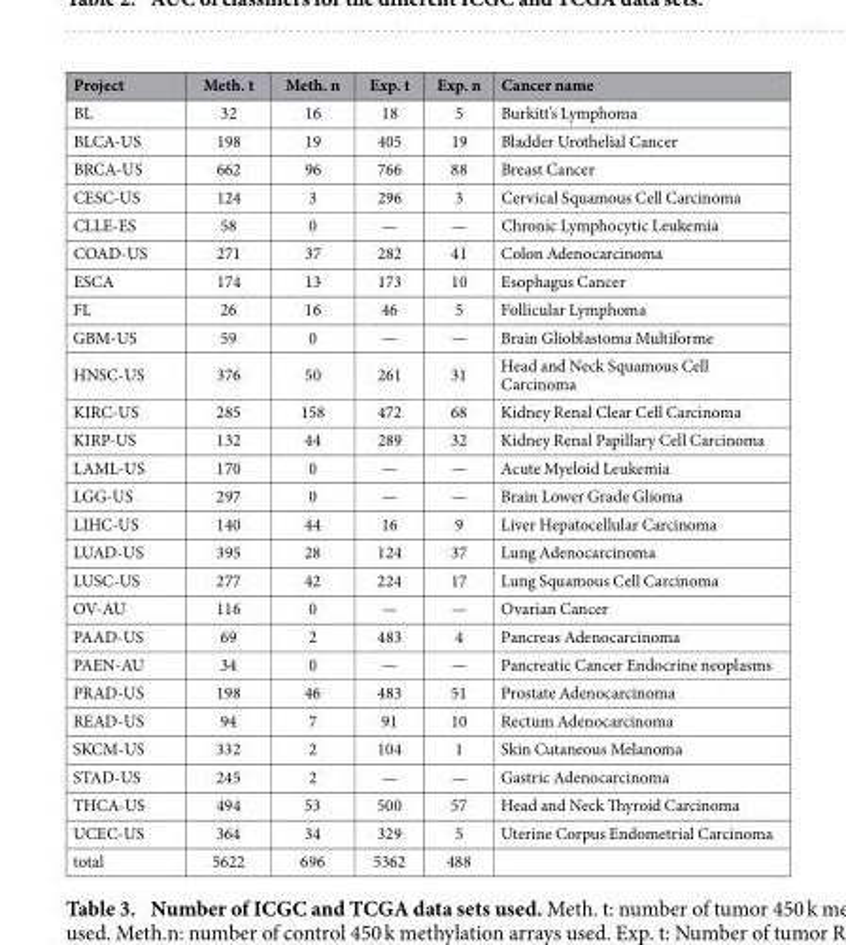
<table><thead><tr><td>Project</td><td>Meth. t</td><td>Meth. n</td><td>Exp. t</td><td>Exp. n</td><td>Cancer name</td></tr></thead><tbody><tr><td>BL</td><td>32</td><td>16</td><td>18</td><td>5</td><td>Burkitt’s Lymphoma</td></tr><tr><td>BLCA-US</td><td>198</td><td>19</td><td>405</td><td>19</td><td>Bladder Urothelial Cancer</td></tr><tr><td>BRCA-US</td><td>662</td><td>96</td><td>766</td><td>88</td><td>Breast Cancer</td></tr><tr><td>CESC-US</td><td>124</td><td>3</td><td>296</td><td>3</td><td>Cervical Squamous Cell Carcinoma</td></tr><tr><td>CLLE-ES</td><td>58</td><td>0</td><td>—</td><td>—</td><td>Chronic Lymphocytic Leukemia</td></tr><tr><td>COAD-US</td><td>271</td><td>37</td><td>282</td><td>41</td><td>Colon Adenocarcinoma</td></tr><tr><td>ESCA</td><td>174</td><td>13</td><td>173</td><td>10</td><td>Esophagus Cancer</td></tr><tr><td>FL</td><td>26</td><td>16</td><td>46</td><td>5</td><td>Follicular Lymphoma</td></tr><tr><td>GBM-US</td><td>59</td><td>0</td><td>—</td><td>—</td><td>Brain Glioblastoma Multiforme</td></tr><tr><td>HNSC-US</td><td>376</td><td>50</td><td>261</td><td>31</td><td>Head and Neck Squamous Cell Carcinoma</td></tr><tr><td>KIRC-US</td><td>285</td><td>158</td><td>472</td><td>68</td><td>Kidney Renal Clear Cell Carcinoma</td></tr><tr><td>KIRP-US</td><td>132</td><td>44</td><td>289</td><td>32</td><td>Kidney Renal Papillary Cell Carcinoma</td></tr><tr><td>LAML-US</td><td>170</td><td>0</td><td>—</td><td>—</td><td>Acute Myeloid Leukemia</td></tr><tr><td>LGG-US</td><td>297</td><td>0</td><td>—</td><td>—</td><td>Brain Lower Grade Glioma</td></tr><tr><td>LIHC-US</td><td>140</td><td>44</td><td>16</td><td>9</td><td>Liver Hepatocellular Carcinoma</td></tr><tr><td>LUAD-US</td><td>395</td><td>28</td><td>124</td><td>37</td><td>Lung Adenocarcinoma</td></tr><tr><td>LUSC-US</td><td>277</td><td>42</td><td>224</td><td>17</td><td>Lung Squamous Cell Carcinoma</td></tr><tr><td>OV-AU</td><td>116</td><td>0</td><td>—</td><td>—</td><td>Ovarian Cancer</td></tr><tr><td>PAAD-US</td><td>69</td><td>2</td><td>483</td><td>4</td><td>Pancreas Adenocarcinoma</td></tr><tr><td>PAEN-AU</td><td>34</td><td>0</td><td>—</td><td>—</td><td>Pancreatic Cancer Endocrine neoplasms</td></tr><tr><td>PRAD-US</td><td>198</td><td>46</td><td>483</td><td>51</td><td>Prostate Adenocarcinoma</td></tr><tr><td>READ-US</td><td>94</td><td>7</td><td>91</td><td>10</td><td>Rectum Adenocarcinoma</td></tr><tr><td>SKCM-US</td><td>332</td><td>2</td><td>104</td><td>1</td><td>Skin Cutaneous Melanoma</td></tr><tr><td>STAD-US</td><td>245</td><td>2</td><td>—</td><td>—</td><td>Gastric Adenocarcinoma</td></tr><tr><td>THCA-US</td><td>494</td><td>53</td><td>500</td><td>57</td><td>Head and Neck Thyroid Carcinoma</td></tr><tr><td>UCEC-US</td><td>364</td><td>34</td><td>329</td><td>5</td><td>Uterine Corpus Endometrial Carcinoma</td></tr><tr><td>total</td><td>5622</td><td>696</td><td>5362</td><td>488</td><td></td></tr></tbody></table>